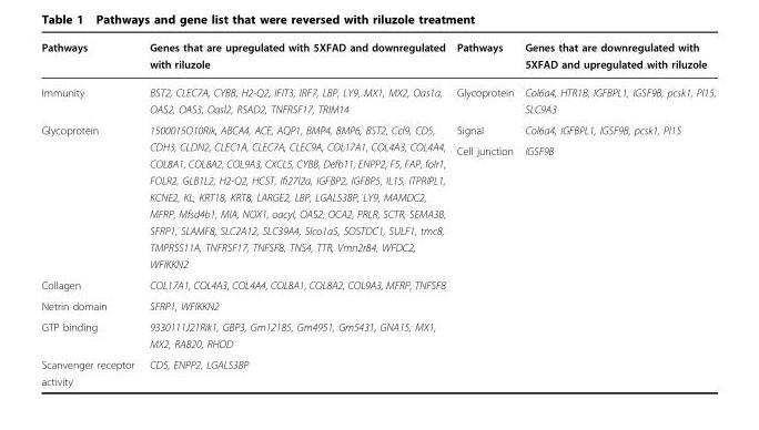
<table><thead><tr><td>Pathways</td><td>Genes that are upregulated with 5XFAD and downregulated with riluzole</td><td>Pathways</td><td>Genes that are downregulated with 5XFAD and upregulated with riluzole</td></tr></thead><tbody><tr><td>Immunity</td><td>BST2, CLEC7A, CYBB, H2-Q2, IFIT3, IRF7, LBP, LY9, MX1, MX2, Oas1a, OAS2, OAS3, Oasl2, RSAD2, TNFRSF17, TRIM14</td><td>Glycoprotein</td><td>Col6a4, HTR1B, IGFBPL1, IGSF9B, pcsk1, PI15, SLC9A3</td></tr><tr><td rowspan="2">Glycoprotein</td><td rowspan="2">1500015O10Rik, ABCA4, ACE, AQP1, BMP4, BMP6, BST2, Ccl9, CD5, CDH3, CLDN2, CLEC1A, CLEC7A, CLEC9A, COL17A1, COL4A3, COL4A4, COL8A1, COL8A2, COL9A3, CXCL5, CYBB, Defb11, ENPP2, F5, FAP, folr1, FOLR2, GLB1L2, H2-Q2, HCST, Ifi27l2a, IGFBP2, IGFBP5, IL15, ITPRIPL1, KCNE2, KL, KRT18, KRT8, LARGE2, LBP, LGALS3BP, LY9, MAMDC2, MFRP, Mfsd4b1, MIA, NOX1, oacyl, OAS2, OCA2, PRLR, SCTR, SEMA3B, SFRP1, SLAMF8, SLC2A12, SLC39A4, Slco1a5, SOSTDC1, SULF1, tmc8, TMPRSS11A, TNFRSF17, TNFSF8, TNS4, TTR, Vmn2r84, WFDC2, WFIKKN2</td><td>Signal</td><td>Col6a4, IGFBPL1, IGSF9B, pcsk1, PI15</td></tr><tr><td>Cell junction</td><td>IGSF9B</td></tr><tr><td>Collagen</td><td>COL17A1, COL4A3, COL4A4, COL8A1, COL8A2, COL9A3, MFRP, TNFSF8</td><td></td><td></td></tr><tr><td>Netrin domain</td><td>SFRP1, WFIKKN2</td><td></td><td></td></tr><tr><td>GTP binding</td><td>9330111J21Rik1, GBP3, Gm12185, Gm4951, Gm5431, GNA15, MX1, MX2, RAB20, RHOD</td><td></td><td></td></tr><tr><td>Scanvenger receptor activity</td><td>CD5, ENPP2, LGALS3BP</td><td></td><td></td></tr></tbody></table>